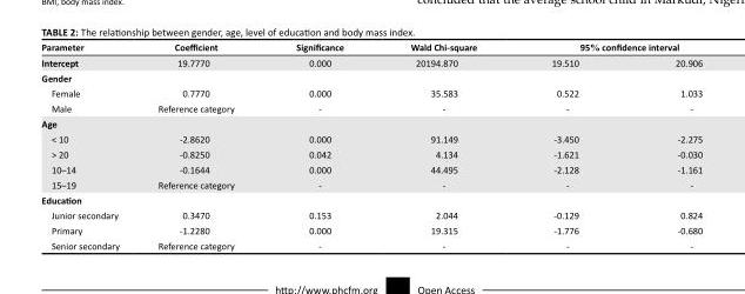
<table><thead><tr><td rowspan="2">Parameter Intercept</td><td rowspan="2">Coefficient 19.7770</td><td rowspan="2">Significance 0.000</td><td rowspan="2">Wald Chi-square 20194.870</td><td colspan="2">95% confidence interval</td></tr><tr><td>19.510</td><td>20.906</td></tr></thead><tbody><tr><td colspan="6">Gender</td></tr><tr><td>Female</td><td>0.7770</td><td>0.000</td><td>35.583</td><td>0.522</td><td>1.033</td></tr><tr><td>Male</td><td>Reference category</td><td>-</td><td>-</td><td>-</td><td>-</td></tr><tr><td colspan="6">Age</td></tr><tr><td>&lt; 10</td><td>-2.8620</td><td>0.000</td><td>91.149</td><td>-3.450</td><td>-2.275</td></tr><tr><td>&gt; 20</td><td>-0.8250</td><td>0.042</td><td>4.134</td><td>-1.621</td><td>-0.030</td></tr><tr><td>10–14</td><td>-0.1644</td><td>0.000</td><td>44.495</td><td>-2.128</td><td>-1.161</td></tr><tr><td>15–19</td><td>Reference category</td><td>-</td><td>-</td><td>-</td><td>-</td></tr><tr><td colspan="6">Education</td></tr><tr><td>Junior secondary</td><td>0.3470</td><td>0.153</td><td>2.044</td><td>-0.129</td><td>0.824</td></tr><tr><td>Primary</td><td>-1.2280</td><td>0.000</td><td>19.315</td><td>-1.776</td><td>-0.680</td></tr><tr><td>Senior secondary</td><td>Reference category</td><td>-</td><td>-</td><td>-</td><td>-</td></tr></tbody></table>